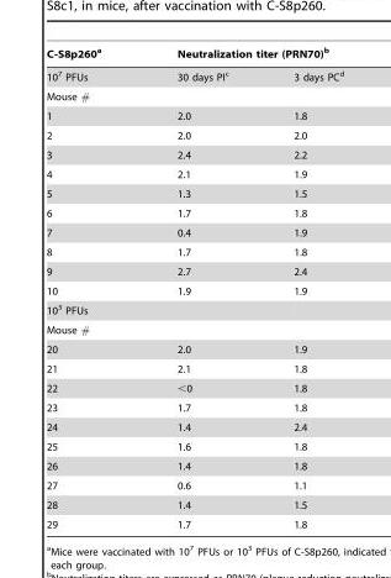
<table><thead><tr><td rowspan="2">C-S8p260<sup>a</sup> 10<sup>7</sup> PFUs</td><td colspan="2">Neutralization titer (PRN70)<sup>b</sup></td></tr><tr><td>30 days PI<sup>c</sup></td><td>3 days PC<sup>d</sup></td></tr></thead><tbody><tr><td colspan="3">Mouse #</td></tr><tr><td>1</td><td>2.0</td><td>1.8</td></tr><tr><td>2</td><td>2.0</td><td>2.0</td></tr><tr><td>3</td><td>2.4</td><td>2.2</td></tr><tr><td>4</td><td>2.1</td><td>1.9</td></tr><tr><td>5</td><td>1.3</td><td>1.5</td></tr><tr><td>6</td><td>1.7</td><td>1.8</td></tr><tr><td>7</td><td>0.4</td><td>1.9</td></tr><tr><td>8</td><td>1.7</td><td>1.8</td></tr><tr><td>9</td><td>2.7</td><td>2.4</td></tr><tr><td>10</td><td>1.9</td><td>1.9</td></tr><tr><td colspan="3">10<sup>3</sup> PFUs</td></tr><tr><td colspan="3">Mouse #</td></tr><tr><td>20</td><td>2.0</td><td>1.9</td></tr><tr><td>21</td><td>2.1</td><td>1.8</td></tr><tr><td>22</td><td>&lt;0</td><td>1.8</td></tr><tr><td>23</td><td>1.7</td><td>1.8</td></tr><tr><td>24</td><td>1.4</td><td>2.4</td></tr><tr><td>25</td><td>1.6</td><td>1.8</td></tr><tr><td>26</td><td>1.4</td><td>1.8</td></tr><tr><td>27</td><td>0.6</td><td>1.1</td></tr><tr><td>28</td><td>1.4</td><td>1.5</td></tr><tr><td>29</td><td>1.7</td><td>1.8</td></tr></tbody></table>